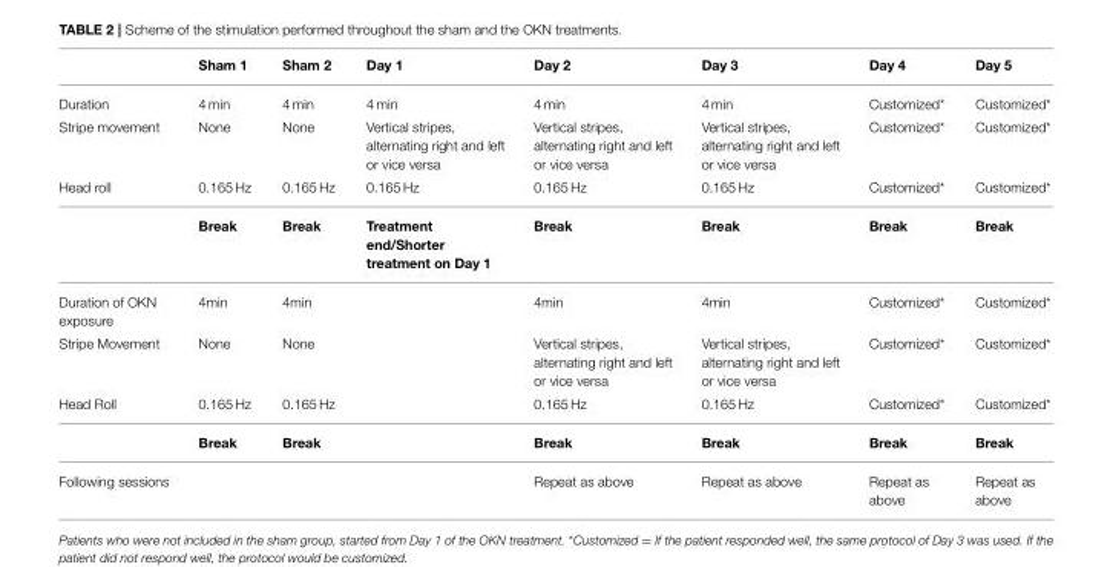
<table><thead><tr><td></td><td>Sham 1</td><td>Sham 2</td><td>Day 1</td><td>Day 2</td><td>Day 3</td><td>Day 4</td><td>Day 5</td></tr></thead><tbody><tr><td>Duration</td><td>4 min</td><td>4 min</td><td>4 min</td><td>4 min</td><td>4 min</td><td>Customized*</td><td>Customized*</td></tr><tr><td>Stripe movement</td><td>None</td><td>None</td><td>Vertical stripes, alternating right and left or vice versa</td><td>Vertical stripes, alternating right and left or vice versa</td><td>Vertical stripes, alternating right and left or vice versa</td><td>Customized*</td><td>Customized*</td></tr><tr><td rowspan="2">Head roll</td><td>0.165 Hz</td><td>0.165 Hz</td><td>0.165 Hz</td><td>0.165 Hz</td><td>0.165 Hz</td><td>Customized*</td><td>Customized*</td></tr><tr><td>Break</td><td>Break</td><td>Treatment end/Shorter treatment on Day 1</td><td>Break</td><td>Break</td><td>Break</td><td>Break</td></tr><tr><td>Duration of OKN exposure</td><td>4min</td><td>4min</td><td></td><td>4min</td><td>4min</td><td>Customized*</td><td>Customized*</td></tr><tr><td>Stripe Movement</td><td>None</td><td>None</td><td></td><td>Vertical stripes, alternating right and left or vice versa</td><td>Vertical stripes, alternating right and left or vice versa</td><td>Customized*</td><td>Customized*</td></tr><tr><td rowspan="2">Head Roll</td><td>0.165 Hz</td><td>0.165 Hz</td><td></td><td>0.165 Hz</td><td>0.165 Hz</td><td>Customized*</td><td>Customized*</td></tr><tr><td>Break</td><td>Break</td><td></td><td>Break</td><td>Break</td><td>Break</td><td>Break</td></tr><tr><td>Following sessions</td><td></td><td></td><td></td><td>Repeat as above</td><td>Repeat as above</td><td>Repeat as above</td><td>Repeat as above</td></tr></tbody></table>